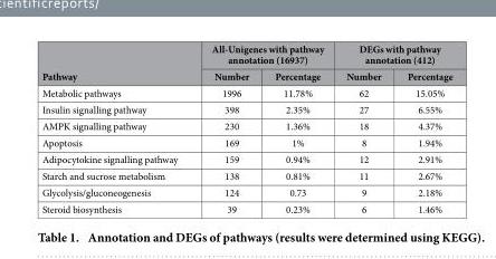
<table><thead><tr><td rowspan="2">Pathway</td><td colspan="2">All-Unigenes with pathway annotation (16937)</td><td colspan="2">DEGs with pathway annotation (412)</td></tr><tr><td>Number</td><td>Percentage</td><td>Number</td><td>Percentage</td></tr></thead><tbody><tr><td>Metabolic pathways</td><td>1996</td><td>11.78%</td><td>62</td><td>15.05%</td></tr><tr><td>Insulin signalling pathway</td><td>398</td><td>2.35%</td><td>27</td><td>6.55%</td></tr><tr><td>AMPK signalling pathway</td><td>230</td><td>1.36%</td><td>18</td><td>4.37%</td></tr><tr><td>Apoptosis</td><td>169</td><td>1%</td><td>8</td><td>1.94%</td></tr><tr><td>Adipocytokine signalling pathway</td><td>159</td><td>0.94%</td><td>12</td><td>2.91%</td></tr><tr><td>Starch and sucrose metabolism</td><td>138</td><td>0.81%</td><td>11</td><td>2.67%</td></tr><tr><td>Glycolysis/gluconeogenesis</td><td>124</td><td>0.73</td><td>9</td><td>2.18%</td></tr><tr><td>Steroid biosynthesis</td><td>39</td><td>0.23%</td><td>6</td><td>1.46%</td></tr></tbody></table>